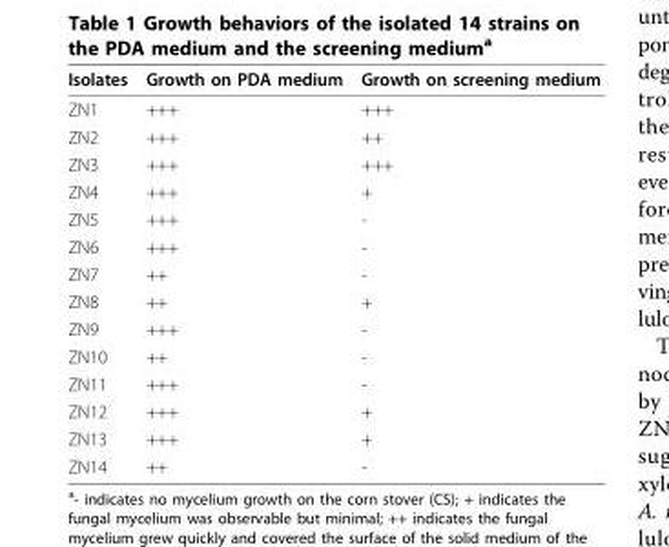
<table><thead><tr><td>Isolates</td><td>Growth on PDA medium</td><td>Growth on screening medium</td></tr></thead><tbody><tr><td>ZN1</td><td>+++</td><td>+++</td></tr><tr><td>ZN2</td><td>+++</td><td>++</td></tr><tr><td>ZN3</td><td>+++</td><td>+++</td></tr><tr><td>ZN4</td><td>+++</td><td>+</td></tr><tr><td>ZN5</td><td>+++</td><td>-</td></tr><tr><td>ZN6</td><td>+++</td><td>-</td></tr><tr><td>ZN7</td><td>++</td><td>-</td></tr><tr><td>ZN8</td><td>++</td><td>+</td></tr><tr><td>ZN9</td><td>+++</td><td>-</td></tr><tr><td>ZN10</td><td>++</td><td>-</td></tr><tr><td>ZN11</td><td>+++</td><td>-</td></tr><tr><td>ZN12</td><td>+++</td><td>+</td></tr><tr><td>ZN13</td><td>+++</td><td>+</td></tr><tr><td>ZN14</td><td>++</td><td>-</td></tr></tbody></table>